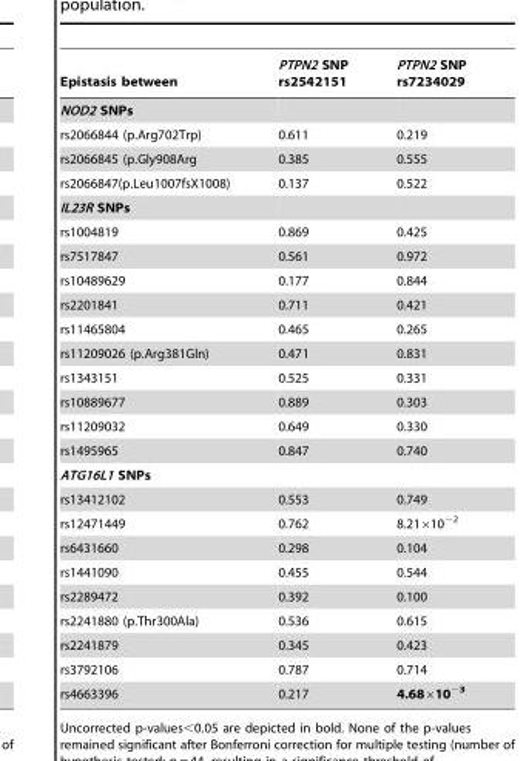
<table><thead><tr><td>Epistasis between</td><td>PTPN2 SNP rs2542151</td><td>PTPN2 SNP rs7234029</td></tr></thead><tbody><tr><td colspan="3">NOD2 SNPs</td></tr><tr><td>rs2066844 (p.Arg702Trp)</td><td>0.611</td><td>0.219</td></tr><tr><td>rs2066845 (p.Gly908Arg</td><td>0.385</td><td>0.555</td></tr><tr><td>rs2066847(p.Leu1007fsX1008)</td><td>0.137</td><td>0.522</td></tr><tr><td colspan="3">IL23R SNPs</td></tr><tr><td>rs1004819</td><td>0.869</td><td>0.425</td></tr><tr><td>rs7517847</td><td>0.561</td><td>0.972</td></tr><tr><td>rs10489629</td><td>0.177</td><td>0.844</td></tr><tr><td>rs2201841</td><td>0.711</td><td>0.421</td></tr><tr><td>rs11465804</td><td>0.465</td><td>0.265</td></tr><tr><td>rs11209026 (p.Arg381Gln)</td><td>0.471</td><td>0.831</td></tr><tr><td>rs1343151</td><td>0.525</td><td>0.331</td></tr><tr><td>rs10889677</td><td>0.889</td><td>0.303</td></tr><tr><td>rs11209032</td><td>0.649</td><td>0.330</td></tr><tr><td>rs1495965</td><td>0.847</td><td>0.740</td></tr><tr><td colspan="3">ATG16L1 SNPs</td></tr><tr><td>rs13412102</td><td>0.553</td><td>0.749</td></tr><tr><td>rs12471449</td><td>0.762</td><td>8.21×10<sup>−2</sup></td></tr><tr><td>rs6431660</td><td>0.298</td><td>0.104</td></tr><tr><td>rs1441090</td><td>0.455</td><td>0.544</td></tr><tr><td>rs2289472</td><td>0.392</td><td>0.100</td></tr><tr><td>rs2241880 (p.Thr300Ala)</td><td>0.536</td><td>0.615</td></tr><tr><td>rs2241879</td><td>0.345</td><td>0.423</td></tr><tr><td>rs3792106</td><td>0.787</td><td>0.714</td></tr><tr><td>rs4663396</td><td>0.217</td><td>4.68×10<sup>−3</sup></td></tr></tbody></table>